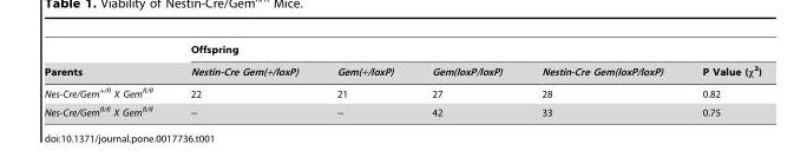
<table><thead><tr><td rowspan="2">Parents</td><td colspan="5">Offspring</td></tr><tr><td>Nestin-Cre Gem(+/loxP)</td><td>Gem(+/loxP)</td><td>Gem(loxP/loxP)</td><td>Nestin-Cre Gem(loxP/loxP)</td><td>P Value (χ<sup>2</sup>)</td></tr></thead><tbody><tr><td>Nes-Cre/Gem<sup>+/fl</sup> X Gem<sup>fl/fl</sup></td><td>22</td><td>21</td><td>27</td><td>28</td><td>0.82</td></tr><tr><td>Nes-Cre/Gem<sup>fl/fl</sup> X Gem<sup>fl/fl</sup></td><td>--</td><td>--</td><td>42</td><td>33</td><td>0.75</td></tr></tbody></table>